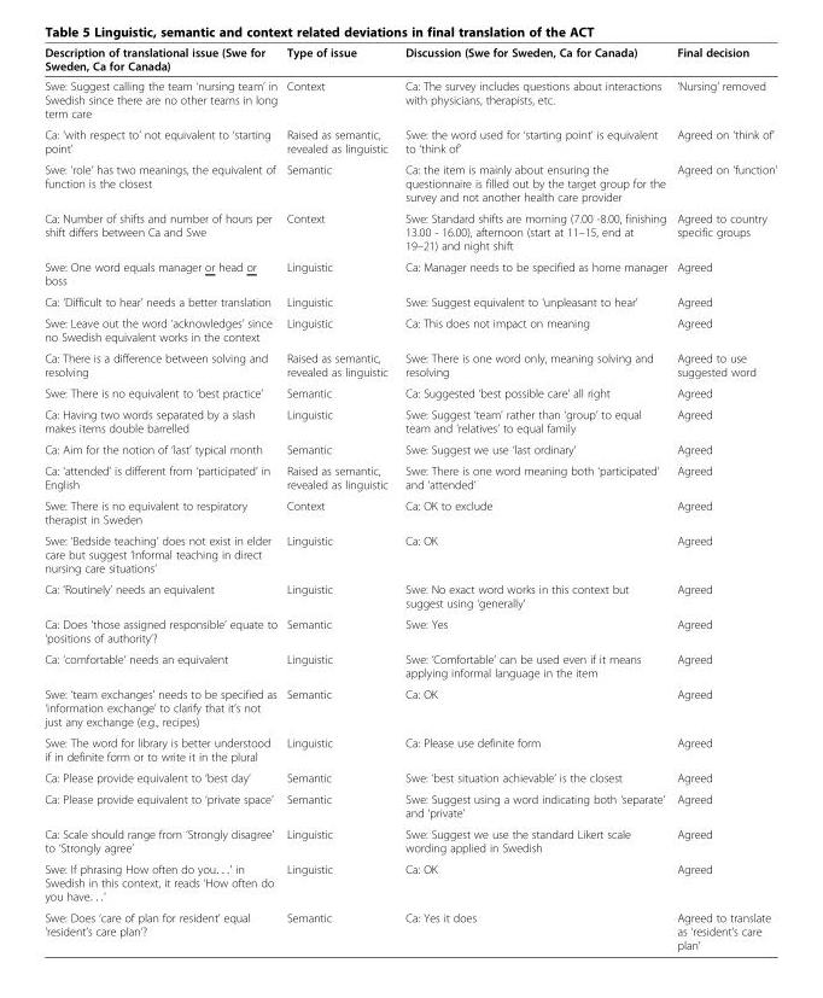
<table><thead><tr><td>Description of translational issue (Swe for Sweden, Ca for Canada)</td><td>Type of issue</td><td>Discussion (Swe for Sweden, Ca for Canada)</td><td>Final decision</td></tr></thead><tbody><tr><td>Swe: Suggest calling the team ‘nursing team’ in Swedish since there are no other teams in long term care</td><td>Context</td><td>Ca: The survey includes questions about interactions with physicians, therapists, etc.</td><td>‘Nursing’ removed</td></tr><tr><td>Ca: ‘with respect to’ not equivalent to ‘starting point’</td><td>Raised as semantic, revealed as linguistic</td><td>Swe: the word used for ‘starting point’ is equivalent to ‘think of’</td><td>Agreed on ‘think of’</td></tr><tr><td>Swe: ‘role’ has two meanings, the equivalent of function is the closest</td><td>Semantic</td><td>Ca: the item is mainly about ensuring the questionnaire is filled out by the target group for the survey and not another health care provider</td><td>Agreed on ‘function’</td></tr><tr><td>Ca: Number of shifts and number of hours per shift differs between Ca and Swe</td><td>Context</td><td>Swe: Standard shifts are morning (7.00 -8.00, finishing 13.00 - 16.00), afternoon (start at 11–15, end at 19–21) and night shift</td><td>Agreed to country specific groups</td></tr><tr><td>Swe: One word equals manager or head or boss</td><td>Linguistic</td><td>Ca: Manager needs to be specified as home manager</td><td>Agreed</td></tr><tr><td>Ca: ‘Difficult to hear’ needs a better translation</td><td>Linguistic</td><td>Swe: Suggest equivalent to ‘unpleasant to hear’</td><td>Agreed</td></tr><tr><td>Swe: Leave out the word ‘acknowledges’ since no Swedish equivalent works in the context</td><td>Linguistic</td><td>Ca: This does not impact on meaning</td><td>Agreed</td></tr><tr><td>Ca: There is a difference between solving and resolving</td><td>Raised as semantic, revealed as linguistic</td><td>Swe: There is one word only, meaning solving and resolving</td><td>Agreed to use suggested word</td></tr><tr><td>Swe: There is no equivalent to ‘best practice’</td><td>Semantic</td><td>Ca: Suggested ‘best possible care’ all right</td><td>Agreed</td></tr><tr><td>Ca: Having two words separated by a slash makes items double barrelled</td><td>Linguistic</td><td>Swe: Suggest ‘team’ rather than ‘group’ to equal team and ‘relatives’ to equal family</td><td>Agreed</td></tr><tr><td>Ca: Aim for the notion of ‘last’ typical month</td><td>Semantic</td><td>Swe: Suggest we use ‘last ordinary’</td><td>Agreed</td></tr><tr><td>Ca: ‘attended’ is different from ‘participated’ in English</td><td>Raised as semantic, revealed as linguistic</td><td>Swe: There is one word meaning both ‘participated’ and ‘attended’</td><td>Agreed</td></tr><tr><td>Swe: There is no equivalent to respiratory therapist in Sweden</td><td>Context</td><td>Ca: OK to exclude</td><td>Agreed</td></tr><tr><td>Swe: ‘Bedside teaching’ does not exist in elder care but suggest ‘Informal teaching in direct nursing care situations’</td><td>Linguistic</td><td>Ca: OK</td><td>Agreed</td></tr><tr><td>Ca: ‘Routinely’ needs an equivalent</td><td>Linguistic</td><td>Swe: No exact word works in this context but suggest using ‘generally’</td><td>Agreed</td></tr><tr><td>Ca: Does ‘those assigned responsible’ equate to ‘positions of authority’?</td><td>Semantic</td><td>Swe: Yes</td><td>Agreed</td></tr><tr><td>Ca: ‘comfortable’ needs an equivalent</td><td>Linguistic</td><td>Swe: ‘Comfortable’ can be used even if it means applying informal language in the item</td><td>Agreed</td></tr><tr><td>Swe: ‘team exchanges’ needs to be specified as ‘information exchange’ to clarify that it’s not just any exchange (e.g., recipes)</td><td>Semantic</td><td>Ca: OK</td><td>Agreed</td></tr><tr><td>Swe: The word for library is better understood if in definite form or to write it in the plural</td><td>Linguistic</td><td>Ca: Please use definite form</td><td>Agreed</td></tr><tr><td>Ca: Please provide equivalent to ‘best day’</td><td>Semantic</td><td>Swe: ‘best situation achievable’ is the closest</td><td>Agreed</td></tr><tr><td>Ca: Please provide equivalent to ‘private space’</td><td>Semantic</td><td>Swe: Suggest using a word indicating both ‘separate’ and ‘private’</td><td>Agreed</td></tr><tr><td>Ca: Scale should range from ‘Strongly disagree’ to ‘Strongly agree’</td><td>Linguistic</td><td>Swe: Suggest we use the standard Likert scale wording applied in Swedish</td><td>Agreed</td></tr><tr><td>Swe: If phrasing How often do you. . .’ in Swedish in this context, it reads ‘How often do you have. . .’</td><td>Linguistic</td><td>Ca: OK</td><td>Agreed</td></tr><tr><td>Swe: Does ‘care of plan for resident’ equal ‘resident’s care plan’?</td><td>Semantic</td><td>Ca: Yes it does</td><td>Agreed to translate as ‘resident’s care plan’</td></tr></tbody></table>